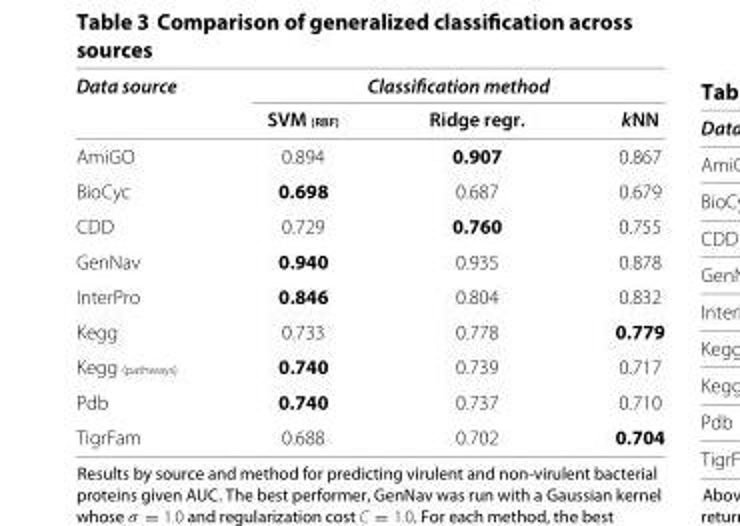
<table><thead><tr><td rowspan="2">Data source</td><td colspan="3">Classification method</td></tr><tr><td>SVM <sub>(RBF)</sub></td><td>Ridge regr.</td><td>kNN</td></tr></thead><tbody><tr><td>AmiGO</td><td>0.894</td><td>0.907</td><td>0.867</td></tr><tr><td>BioCyc</td><td>0.698</td><td>0.687</td><td>0.679</td></tr><tr><td>CDD</td><td>0.729</td><td>0.760</td><td>0.755</td></tr><tr><td>GenNav</td><td>0.940</td><td>0.935</td><td>0.878</td></tr><tr><td>InterPro</td><td>0.846</td><td>0.804</td><td>0.832</td></tr><tr><td>Kegg</td><td>0.733</td><td>0.778</td><td>0.779</td></tr><tr><td>Kegg (pathways)</td><td>0.740</td><td>0.739</td><td>0.717</td></tr><tr><td>Pdb</td><td>0.740</td><td>0.737</td><td>0.710</td></tr><tr><td>TigrFam</td><td>0.688</td><td>0.702</td><td>0.704</td></tr></tbody></table>